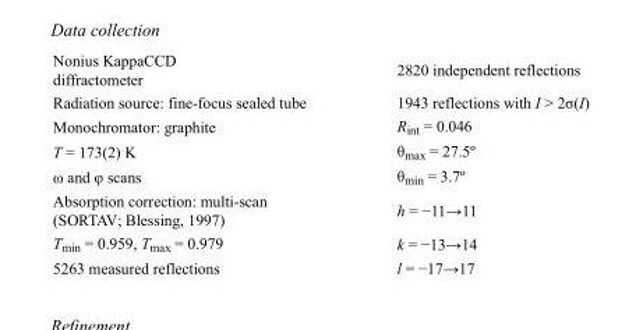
<table><tbody><tr><td>Nonius KappaCCD diffractometer</td><td>2820 independent reflections</td></tr><tr><td>Radiation source: fine-focus sealed tube</td><td>1943 reflections with I &gt; 2σ(I)</td></tr><tr><td>Monochromator: graphite</td><td>R<sub>int</sub> = 0.046</td></tr><tr><td>T = 173(2) K</td><td>θ<sub>max</sub> = 27.5º</td></tr><tr><td>ω and φ scans</td><td>θ<sub>min</sub> = 3.7º</td></tr><tr><td>Absorption correction: multi-scan (SORTAV; Blessing, 1997)</td><td>h = −11→11</td></tr><tr><td>T<sub>min</sub> = 0.959, T<sub>max</sub> = 0.979</td><td>k = −13→14</td></tr><tr><td>5263 measured reflections</td><td>l = −17→17</td></tr></tbody></table>